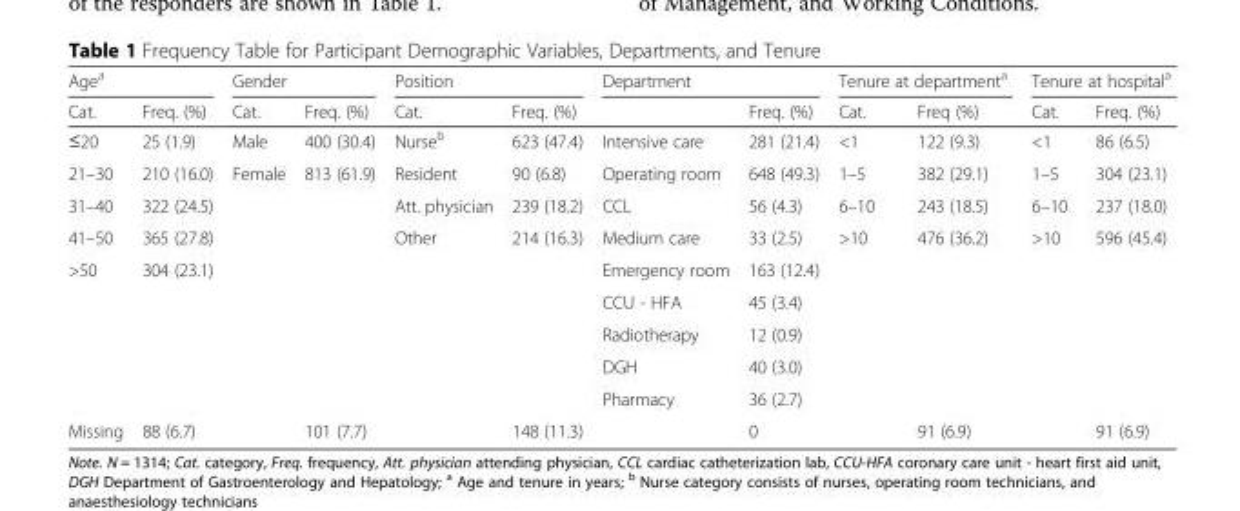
<table><thead><tr><td colspan="2">Age<sup>a</sup></td><td colspan="2">Gender</td><td colspan="2">Position</td><td colspan="2">Department</td><td colspan="2">Tenure at department<sup>a</sup></td><td colspan="2">Tenure at hospital<sup>a</sup></td></tr><tr><td>Cat.</td><td>Freq. (%)</td><td>Cat.</td><td>Freq. (%)</td><td>Cat.</td><td>Freq. (%)</td><td></td><td>Freq. (%)</td><td>Cat.</td><td>Freq (%)</td><td>Cat.</td><td>Freq. (%)</td></tr></thead><tbody><tr><td>≤20</td><td>25 (1.9)</td><td>Male</td><td>400 (30.4)</td><td>Nurse<sup>b</sup></td><td>623 (47.4)</td><td>Intensive care</td><td>281 (21.4)</td><td>&lt;1</td><td>122 (9.3)</td><td>&lt;1</td><td>86 (6.5)</td></tr><tr><td>21–30</td><td>210 (16.0)</td><td>Female</td><td>813 (61.9)</td><td>Resident</td><td>90 (6.8)</td><td>Operating room</td><td>648 (49.3)</td><td>1–5</td><td>382 (29.1)</td><td>1–5</td><td>304 (23.1)</td></tr><tr><td>31–40</td><td>322 (24.5)</td><td></td><td></td><td>Att. physician</td><td>239 (18.2)</td><td>CCL</td><td>56 (4.3)</td><td>6–10</td><td>243 (18.5)</td><td>6–10</td><td>237 (18.0)</td></tr><tr><td>41–50</td><td>365 (27.8)</td><td></td><td></td><td>Other</td><td>214 (16.3)</td><td>Medium care</td><td>33 (2.5)</td><td>&gt;10</td><td>476 (36.2)</td><td>&gt;10</td><td>596 (45.4)</td></tr><tr><td rowspan="5">&gt;50</td><td>304 (23.1)</td><td></td><td></td><td></td><td></td><td>Emergency room</td><td>163 (12.4)</td><td></td><td></td><td></td><td></td></tr><tr><td></td><td></td><td></td><td></td><td></td><td>CCU - HFA</td><td>45 (3.4)</td><td></td><td></td><td></td><td></td></tr><tr><td></td><td></td><td></td><td></td><td></td><td>Radiotherapy</td><td>12 (0.9)</td><td></td><td></td><td></td><td></td></tr><tr><td></td><td></td><td></td><td></td><td></td><td>DGH</td><td>40 (3.0)</td><td></td><td></td><td></td><td></td></tr><tr><td></td><td></td><td></td><td></td><td></td><td>Pharmacy</td><td>36 (2.7)</td><td></td><td></td><td></td><td></td></tr><tr><td>Missing</td><td>88 (6.7)</td><td></td><td>101 (7.7)</td><td></td><td>148 (11.3)</td><td></td><td>0</td><td></td><td>91 (6.9)</td><td></td><td>91 (6.9)</td></tr></tbody></table>